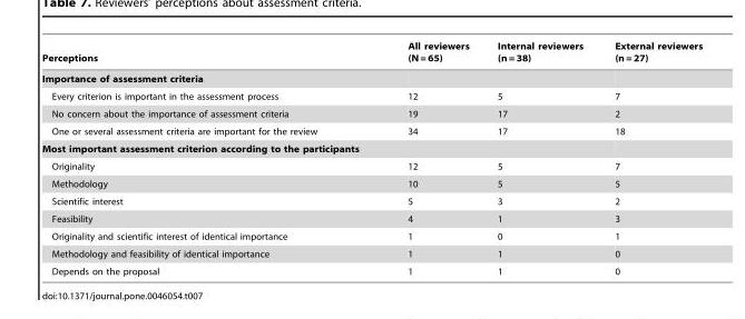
<table><thead><tr><td>Perceptions</td><td>All reviewers (N = 65)</td><td>Internal reviewers (n = 38)</td><td>External reviewers (n = 27)</td></tr></thead><tbody><tr><td colspan="4">Importance of assessment criteria</td></tr><tr><td>Every criterion is important in the assessment process</td><td>12</td><td>5</td><td>7</td></tr><tr><td>No concern about the importance of assessment criteria</td><td>19</td><td>17</td><td>2</td></tr><tr><td>One or several assessment criteria are important for the review</td><td>34</td><td>17</td><td>18</td></tr><tr><td colspan="4">Most important assessment criterion according to the participants</td></tr><tr><td>Originality</td><td>12</td><td>5</td><td>7</td></tr><tr><td>Methodology</td><td>10</td><td>5</td><td>5</td></tr><tr><td>Scientific interest</td><td>5</td><td>3</td><td>2</td></tr><tr><td>Feasibility</td><td>4</td><td>1</td><td>3</td></tr><tr><td>Originality and scientific interest of identical importance</td><td>1</td><td>0</td><td>1</td></tr><tr><td>Methodology and feasibility of identical importance</td><td>1</td><td>1</td><td>0</td></tr><tr><td>Depends on the proposal</td><td>1</td><td>1</td><td>0</td></tr></tbody></table>